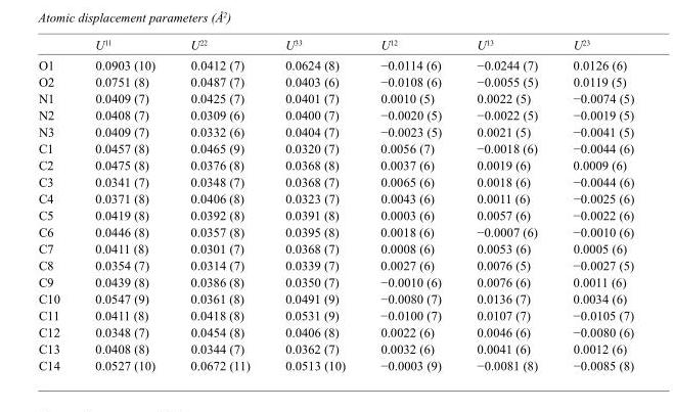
<table><thead><tr><td></td><td>U<sup>11</sup></td><td>U<sup>22</sup></td><td>U<sup>33</sup></td><td>U<sup>12</sup></td><td>U<sup>13</sup></td><td>U<sup>23</sup></td></tr></thead><tbody><tr><td>O1</td><td>0.0903 (10)</td><td>0.0412 (7)</td><td>0.0624 (8)</td><td>−0.0114 (6)</td><td>−0.0244 (7)</td><td>0.0126 (6)</td></tr><tr><td>O2</td><td>0.0751 (8)</td><td>0.0487 (7)</td><td>0.0403 (6)</td><td>−0.0108 (6)</td><td>−0.0055 (5)</td><td>0.0119 (5)</td></tr><tr><td>N1</td><td>0.0409 (7)</td><td>0.0425 (7)</td><td>0.0401 (7)</td><td>0.0010 (5)</td><td>0.0022 (5)</td><td>−0.0074 (5)</td></tr><tr><td>N2</td><td>0.0408 (7)</td><td>0.0309 (6)</td><td>0.0400 (7)</td><td>−0.0020 (5)</td><td>−0.0022 (5)</td><td>−0.0019 (5)</td></tr><tr><td>N3</td><td>0.0409 (7)</td><td>0.0332 (6)</td><td>0.0404 (7)</td><td>−0.0023 (5)</td><td>0.0021 (5)</td><td>−0.0041 (5)</td></tr><tr><td>C1</td><td>0.0457 (8)</td><td>0.0465 (9)</td><td>0.0320 (7)</td><td>0.0056 (7)</td><td>−0.0018 (6)</td><td>−0.0044 (6)</td></tr><tr><td>C2</td><td>0.0475 (8)</td><td>0.0376 (8)</td><td>0.0368 (8)</td><td>0.0037 (6)</td><td>0.0019 (6)</td><td>0.0009 (6)</td></tr><tr><td>C3</td><td>0.0341 (7)</td><td>0.0348 (7)</td><td>0.0368 (7)</td><td>0.0065 (6)</td><td>0.0018 (6)</td><td>−0.0044 (6)</td></tr><tr><td>C4</td><td>0.0371 (8)</td><td>0.0406 (8)</td><td>0.0323 (7)</td><td>0.0043 (6)</td><td>0.0011 (6)</td><td>−0.0025 (6)</td></tr><tr><td>C5</td><td>0.0419 (8)</td><td>0.0392 (8)</td><td>0.0391 (8)</td><td>0.0003 (6)</td><td>0.0057 (6)</td><td>−0.0022 (6)</td></tr><tr><td>C6</td><td>0.0446 (8)</td><td>0.0357 (8)</td><td>0.0395 (8)</td><td>0.0018 (6)</td><td>−0.0007 (6)</td><td>−0.0010 (6)</td></tr><tr><td>C7</td><td>0.0411 (8)</td><td>0.0301 (7)</td><td>0.0368 (7)</td><td>0.0008 (6)</td><td>0.0053 (6)</td><td>0.0005 (6)</td></tr><tr><td>C8</td><td>0.0354 (7)</td><td>0.0314 (7)</td><td>0.0339 (7)</td><td>0.0027 (6)</td><td>0.0076 (5)</td><td>−0.0027 (5)</td></tr><tr><td>C9</td><td>0.0439 (8)</td><td>0.0386 (8)</td><td>0.0350 (7)</td><td>−0.0010 (6)</td><td>0.0076 (6)</td><td>0.0011 (6)</td></tr><tr><td>C10</td><td>0.0547 (9)</td><td>0.0361 (8)</td><td>0.0491 (9)</td><td>−0.0080 (7)</td><td>0.0136 (7)</td><td>0.0034 (6)</td></tr><tr><td>C11</td><td>0.0411 (8)</td><td>0.0418 (8)</td><td>0.0531 (9)</td><td>−0.0100 (7)</td><td>0.0107 (7)</td><td>−0.0105 (7)</td></tr><tr><td>C12</td><td>0.0348 (7)</td><td>0.0454 (8)</td><td>0.0406 (8)</td><td>0.0022 (6)</td><td>0.0046 (6)</td><td>−0.0080 (6)</td></tr><tr><td>C13</td><td>0.0408 (8)</td><td>0.0344 (7)</td><td>0.0362 (7)</td><td>0.0032 (6)</td><td>0.0041 (6)</td><td>0.0012 (6)</td></tr><tr><td>C14</td><td>0.0527 (10)</td><td>0.0672 (11)</td><td>0.0513 (10)</td><td>−0.0003 (9)</td><td>−0.0081 (8)</td><td>−0.0085 (8)</td></tr></tbody></table>